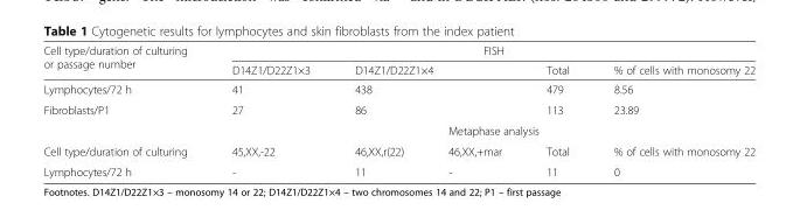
<table><thead><tr><td rowspan="2">Cell type/duration of culturing or passage number</td><td colspan="5">FISH</td></tr><tr><td>D14Z1/D22Z1×3</td><td colspan="2">D14Z1/D22Z1×4</td><td>Total</td><td>% of cells with monosomy 22</td></tr></thead><tbody><tr><td>Lymphocytes/72 h</td><td>41</td><td colspan="2">438</td><td>479</td><td>8.56</td></tr><tr><td rowspan="2">Fibroblasts/P1</td><td>27</td><td colspan="2">86</td><td>113</td><td>23.89</td></tr><tr><td colspan="5">Metaphase analysis</td></tr><tr><td>Cell type/duration of culturing</td><td>45,XX,-22</td><td>46,XX,r(22)</td><td>46,XX,+mar</td><td>Total</td><td>% of cells with monosomy 22</td></tr><tr><td>Lymphocytes/72 h</td><td>-</td><td>11</td><td>-</td><td>11</td><td>0</td></tr></tbody></table>